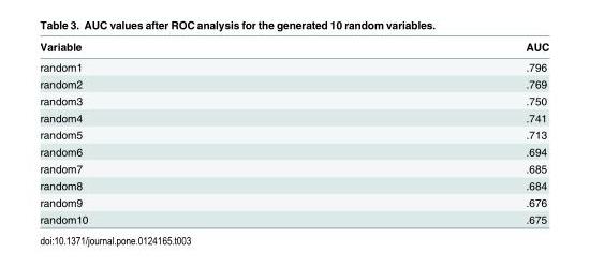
<table><thead><tr><td>Variable</td><td>AUC</td></tr></thead><tbody><tr><td>random1</td><td>.796</td></tr><tr><td>random2</td><td>.769</td></tr><tr><td>random3</td><td>.750</td></tr><tr><td>random4</td><td>.741</td></tr><tr><td>random5</td><td>.713</td></tr><tr><td>random6</td><td>.694</td></tr><tr><td>random7</td><td>.685</td></tr><tr><td>random8</td><td>.684</td></tr><tr><td>random9</td><td>.676</td></tr><tr><td>random10</td><td>.675</td></tr></tbody></table>